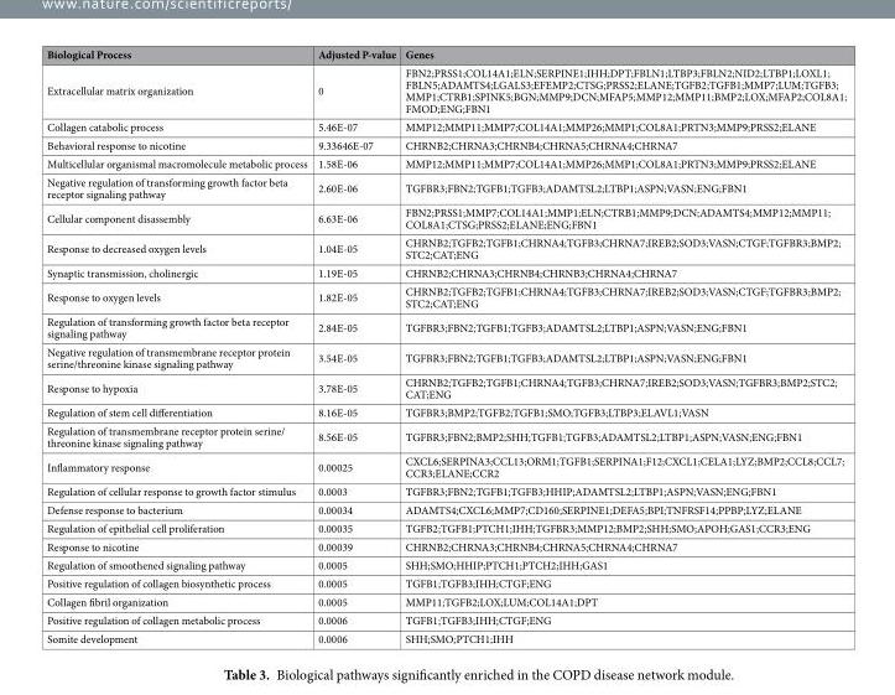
<table><thead><tr><td>Biological Process</td><td>Adjusted P-value</td><td>Genes</td></tr></thead><tbody><tr><td>Extracellular matrix organization</td><td>0</td><td>FBN2;PRSS1;COL14A1;ELN;SERPINE1;IHH;DPT;FBLN1;LTBP3;FBLN2;NID2;LTBP1;LOXL1; FBLN5;ADAMTS4;LGALS3;EFEMP2;CTSG;PRSS2;ELANE;TGFB2;TGFB1;MMP7;LUM;TGFB3; MMP1;CTRB1;SPINK5;BGN;MMP9;DCN;MFAP5;MMP12;MMP11;BMP2;LOX;MFAP2;COL8A1; FMOD;ENG;FBN1</td></tr><tr><td>Collagen catabolic process</td><td>5.46E-07</td><td>MMP12;MMP11;MMP7;COL14A1;MMP26;MMP1;COL8A1;PRTN3;MMP9;PRSS2;ELANE</td></tr><tr><td>Behavioral response to nicotine</td><td>9.33646E-07</td><td>CHRNB2;CHRNA3;CHRNB4;CHRNA5;CHRNA4;CHRNA7</td></tr><tr><td>Multicellular organismal macromolecule metabolic process</td><td>1.58E-06</td><td>MMP12;MMP11;MMP7;COL14A1;MMP26;MMP1;COL8A1;PRTN3;MMP9;PRSS2;ELANE</td></tr><tr><td>Negative regulation of transforming growth factor beta receptor signaling pathway</td><td>2.60E-06</td><td>TGFBR3;FBN2;TGFB1;TGFB3;ADAMTSL2;LTBP1;ASPN;VASN;ENG;FBN1</td></tr><tr><td>Cellular component disassembly</td><td>6.63E-06</td><td>FBN2;PRSS1;MMP7;COL14A1;MMP1;ELN;CTRB1;MMP9;DCN;ADAMTS4;MMP12;MMP11; COL8A1;CTSG;PRSS2;ELANE;ENG;FBN1</td></tr><tr><td>Response to decreased oxygen levels</td><td>1.04E-05</td><td>CHRNB2;TGFB2;TGFB1;CHRNA4;TGFB3;CHRNA7;IREB2;SOD3;VASN;CTGF;TGFBR3;BMP2; STC2;CAT;ENG</td></tr><tr><td>Synaptic transmission, cholinergic</td><td>1.19E-05</td><td>CHRNB2;CHRNA3;CHRNB4;CHRNB3;CHRNA4;CHRNA7</td></tr><tr><td>Response to oxygen levels</td><td>1.82E-05</td><td>CHRNB2;TGFB2;TGFB1;CHRNA4;TGFB3;CHRNA7;IREB2;SOD3;VASN;CTGF;TGFBR3;BMP2; STC2;CAT;ENG</td></tr><tr><td>Regulation of transforming growth factor beta receptor signaling pathway</td><td>2.84E-05</td><td>TGFBR3;FBN2;TGFB1;TGFB3;ADAMTSL2;LTBP1;ASPN;VASN;ENG;FBN1</td></tr><tr><td>Negative regulation of transmembrane receptor protein serine/threonine kinase signaling pathway</td><td>3.54E-05</td><td>TGFBR3;FBN2;TGFB1;TGFB3;ADAMTSL2;LTBP1;ASPN;VASN;ENG;FBN1</td></tr><tr><td>Response to hypoxia</td><td>3.78E-05</td><td>CHRNB2;TGFB2;TGFB1;CHRNA4;TGFB3;CHRNA7;IREB2;SOD3;VASN;TGFBR3;BMP2;STC2; CAT;ENG</td></tr><tr><td>Regulation of stem cell differentiation</td><td>8.16E-05</td><td>TGFBR3;BMP2;TGFB2;TGFB1;SMO;TGFB3;LTBP3;ELAVL1;VASN</td></tr><tr><td>Regulation of transmembrane receptor protein serine/ threonine kinase signaling pathway</td><td>8.56E-05</td><td>TGFBR3;FBN2;BMP2;SHH;TGFB1;TGFB3;ADAMTSL2;LTBP1;ASPN;VASN;ENG;FBN1</td></tr><tr><td>Inflammatory response</td><td>0.00025</td><td>CXCL6;SERPINA3;CCL13;ORM1;TGFB1;SERPINA1;F12;CXCL1;CELA1;LYZ;BMP2;CCL8;CCL7; CCR3;ELANE;CCR2</td></tr><tr><td>Regulation of cellular response to growth factor stimulus</td><td>0.0003</td><td>TGFBR3;FBN2;TGFB1;TGFB3;HHIP;ADAMTSL2;LTBP1;ASPN;VASN;ENG;FBN1</td></tr><tr><td>Defense response to bacterium</td><td>0.00034</td><td>ADAMTS4;CXCL6;MMP7;CD160;SERPINE1;DEFA5;BPI;TNFRSF14;PPBP;LYZ;ELANE</td></tr><tr><td>Regulation of epithelial cell proliferation</td><td>0.00035</td><td>TGFB2;TGFB1;PTCH1;IHH;TGFBR3;MMP12;BMP2;SHH;SMO;APOH;GAS1;CCR3;ENG</td></tr><tr><td>Response to nicotine</td><td>0.00039</td><td>CHRNB2;CHRNA3;CHRNB4;CHRNA5;CHRNA4;CHRNA7</td></tr><tr><td>Regulation of smoothened signaling pathway</td><td>0.0005</td><td>SHH;SMO;HHIP;PTCH1;PTCH2;IHH;GAS1</td></tr><tr><td>Positive regulation of collagen biosynthetic process</td><td>0.0005</td><td>TGFB1;TGFB3;IHH;CTGF;ENG</td></tr><tr><td>Collagen fibril organization</td><td>0.0005</td><td>MMP11;TGFB2;LOX;LUM;COL14A1;DPT</td></tr><tr><td>Positive regulation of collagen metabolic process</td><td>0.0006</td><td>TGFB1;TGFB3;IHH;CTGF;ENG</td></tr><tr><td>Somite development</td><td>0.0006</td><td>SHH;SMO;PTCH1;IHH</td></tr></tbody></table>